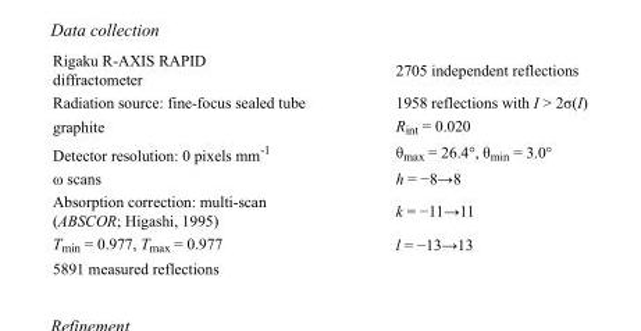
<table><tbody><tr><td>Rigaku R-AXIS RAPID diffractometer</td><td>2705 independent reflections</td></tr><tr><td>Radiation source: fine-focus sealed tube</td><td>1958 reflections with I &gt; 2σ(I)</td></tr><tr><td>graphite</td><td>R<sub>int</sub> = 0.020</td></tr><tr><td>Detector resolution: 0 pixels mm<sup>-1</sup></td><td>θ<sub>max</sub> = 26.4°, θ<sub>min</sub> = 3.0°</td></tr><tr><td>ω scans</td><td>h = −8→8</td></tr><tr><td>Absorption correction: multi-scan (ABSCOR; Higashi, 1995)</td><td>k = −11→11</td></tr><tr><td>T<sub>min</sub> = 0.977, T<sub>max</sub> = 0.977</td><td>l = −13→13</td></tr><tr><td>5891 measured reflections</td><td></td></tr></tbody></table>